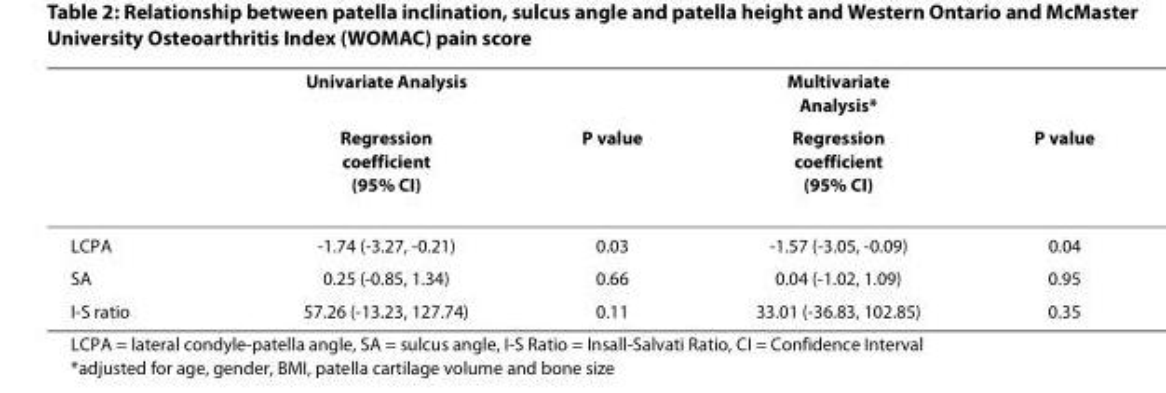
<table><thead><tr><td rowspan="2"></td><td rowspan="2">Univariate Analysis Regression coefficient (95% CI)</td><td rowspan="2">P value</td><td rowspan="2">Multivariate Analysis* Regression coefficient (95% CI)</td><td rowspan="2">P value</td></tr><tr></tr></thead><tbody><tr><td>LCPA</td><td>-1.74 (-3.27, -0.21)</td><td>0.03</td><td>-1.57 (-3.05, -0.09)</td><td>0.04</td></tr><tr><td>SA</td><td>0.25 (-0.85, 1.34)</td><td>0.66</td><td>0.04 (-1.02, 1.09)</td><td>0.95</td></tr><tr><td>I-S ratio</td><td>57.26 (-13.23, 127.74)</td><td>0.11</td><td>33.01 (-36.83, 102.85)</td><td>0.35</td></tr></tbody></table>